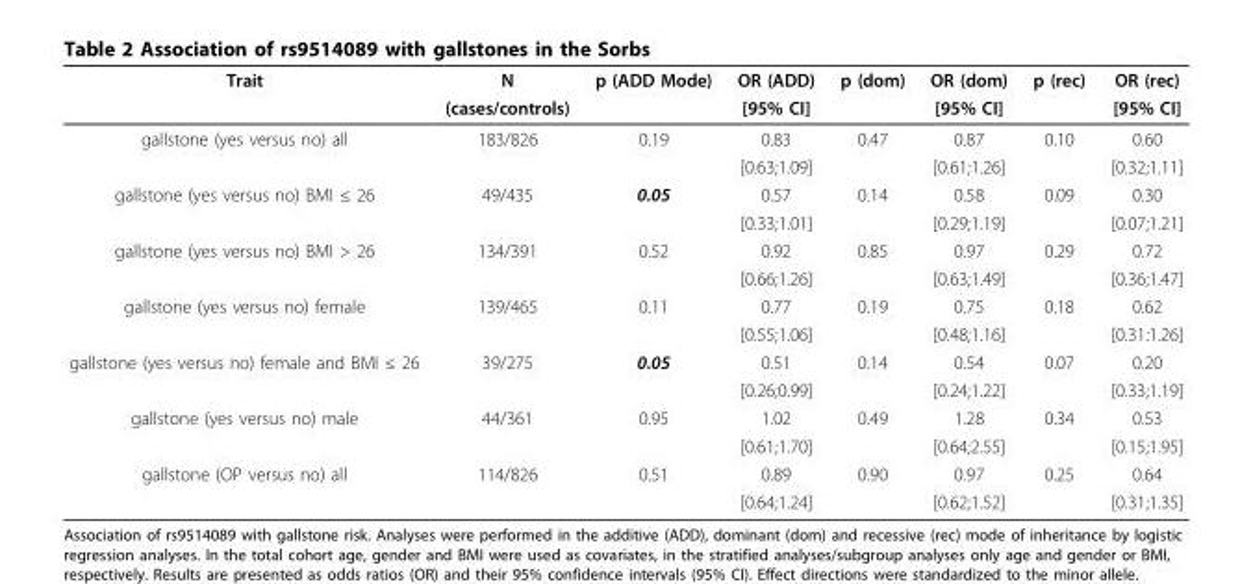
<table><thead><tr><td rowspan="2">Trait</td><td rowspan="2">N (cases/controls)</td><td rowspan="2">p (ADD Mode)</td><td rowspan="2">OR (ADD) [95% CI]</td><td rowspan="2">p (dom)</td><td rowspan="2">OR (dom) [95% CI]</td><td rowspan="2">p (rec)</td><td rowspan="2">OR (rec) [95% CI]</td></tr><tr></tr></thead><tbody><tr><td rowspan="2">gallstone (yes versus no) all</td><td>183/826</td><td>0.19</td><td>0.83</td><td>0.47</td><td>0.87</td><td>0.10</td><td>0.60</td></tr><tr><td></td><td></td><td>[0.63;1.09]</td><td></td><td>[0.61;1.26]</td><td></td><td>[0.32;1.11]</td></tr><tr><td rowspan="2">gallstone (yes versus no) BMI ≤ 26</td><td>49/435</td><td>0.05</td><td>0.57</td><td>0.14</td><td>0.58</td><td>0.09</td><td>0.30</td></tr><tr><td></td><td></td><td>[0.33;1.01]</td><td></td><td>[0.29;1.19]</td><td></td><td>[0.07;1.21]</td></tr><tr><td rowspan="2">gallstone (yes versus no) BMI &gt; 26</td><td>134/391</td><td>0.52</td><td>0.92</td><td>0.85</td><td>0.97</td><td>0.29</td><td>0.72</td></tr><tr><td></td><td></td><td>[0.66;1.26]</td><td></td><td>[0.63;1.49]</td><td></td><td>[0.36;1.47]</td></tr><tr><td rowspan="2">gallstone (yes versus no) female</td><td>139/465</td><td>0.11</td><td>0.77</td><td>0.19</td><td>0.75</td><td>0.18</td><td>0.62</td></tr><tr><td></td><td></td><td>[0.55;1.06]</td><td></td><td>[0.48;1.16]</td><td></td><td>[0.31:1.26]</td></tr><tr><td rowspan="2">gallstone (yes versus no) female and BMI ≤ 26</td><td>39/275</td><td>0.05</td><td>0.51</td><td>0.14</td><td>0.54</td><td>0.07</td><td>0.20</td></tr><tr><td></td><td></td><td>[0.26;0.99]</td><td></td><td>[0.24;1.22]</td><td></td><td>[0.33;1.19]</td></tr><tr><td rowspan="2">gallstone (yes versus no) male</td><td>44/361</td><td>0.95</td><td>1.02</td><td>0.49</td><td>1.28</td><td>0.34</td><td>0.53</td></tr><tr><td></td><td></td><td>[0.61;1.70]</td><td></td><td>[0.64;2.55]</td><td></td><td>[0.15;1.95]</td></tr><tr><td rowspan="2">gallstone (OP versus no) all</td><td>114/826</td><td>0.51</td><td>0.89</td><td>0.90</td><td>0.97</td><td>0.25</td><td>0.64</td></tr><tr><td></td><td></td><td>[0.64;1.24]</td><td></td><td>[0.62;1.52]</td><td></td><td>[0.31;1.35]</td></tr></tbody></table>